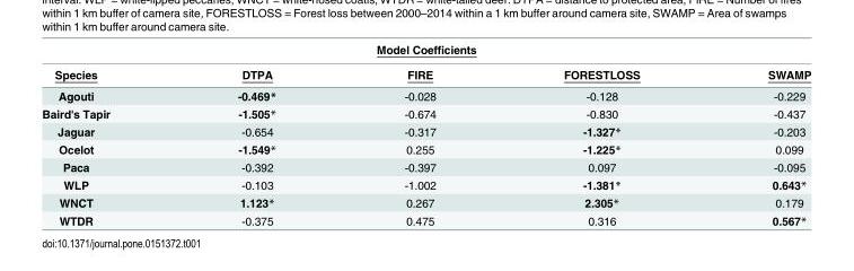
<table><thead><tr><td colspan="5">Model Coefficients</td></tr><tr><td>Species</td><td>DTPA</td><td>FIRE</td><td>FORESTLOSS</td><td>SWAMP</td></tr></thead><tbody><tr><td>Agouti</td><td>-0.469*</td><td>-0.028</td><td>-0.128</td><td>-0.229</td></tr><tr><td>Baird&#x27;s Tapir</td><td>-1.505*</td><td>-0.674</td><td>-0.830</td><td>-0.437</td></tr><tr><td>Jaguar</td><td>-0.654</td><td>-0.317</td><td>-1.327*</td><td>-0.203</td></tr><tr><td>Ocelot</td><td>-1.549*</td><td>0.255</td><td>-1.225*</td><td>0.099</td></tr><tr><td>Paca</td><td>-0.392</td><td>-0.397</td><td>0.097</td><td>-0.095</td></tr><tr><td>WLP</td><td>-0.103</td><td>-1.002</td><td>-1.381*</td><td>0.643*</td></tr><tr><td>WNCT</td><td>1.123*</td><td>0.267</td><td>2.305*</td><td>0.179</td></tr><tr><td>WTDR</td><td>-0.375</td><td>0.475</td><td>0.316</td><td>0.567*</td></tr></tbody></table>